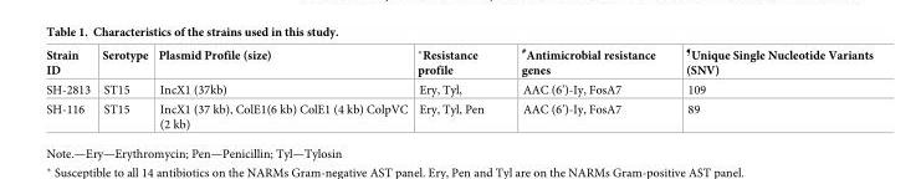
<table><thead><tr><td>Strain ID</td><td>Serotype</td><td>Plasmid Profile (size)</td><td>*Resistance profile</td><td><sup>#</sup>Antimicrobial resistance genes</td><td><sup>¶</sup>Unique Single Nucleotide Variants (SNV)</td></tr></thead><tbody><tr><td>SH-2813</td><td>ST15</td><td>IncX1 (37kb)</td><td>Ery, Tyl,</td><td>AAC (6’)-Iy, FosA7</td><td>109</td></tr><tr><td>SH-116</td><td>ST15</td><td>IncX1 (37 kb), ColE1(6 kb) ColE1 (4 kb) ColpVC (2 kb)</td><td>Ery, Tyl, Pen</td><td>AAC (6’)-Iy, FosA7</td><td>89</td></tr></tbody></table>